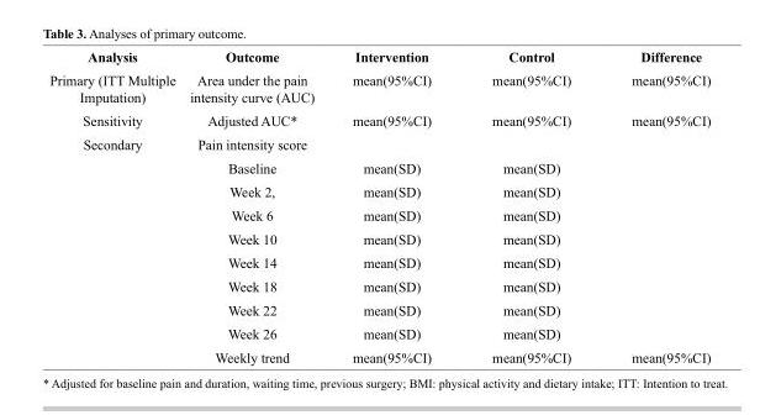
<table><thead><tr><td>Analysis</td><td>Outcome</td><td>Intervention</td><td>Control</td><td>Difference</td></tr></thead><tbody><tr><td>Primary (ITT Multiple Imputation)</td><td>Area under the pain intensity curve (AUC)</td><td>mean(95%CI)</td><td>mean(95%CI)</td><td>mean(95%CI)</td></tr><tr><td>Sensitivity</td><td>Adjusted AUC*</td><td>mean(95%CI)</td><td>mean(95%CI)</td><td>mean(95%CI)</td></tr><tr><td rowspan="10">Secondary</td><td>Pain intensity score</td><td></td><td></td><td></td></tr><tr><td>Baseline</td><td>mean(SD)</td><td>mean(SD)</td><td></td></tr><tr><td>Week 2,</td><td>mean(SD)</td><td>mean(SD)</td><td></td></tr><tr><td>Week 6</td><td>mean(SD)</td><td>mean(SD)</td><td></td></tr><tr><td>Week 10</td><td>mean(SD)</td><td>mean(SD)</td><td></td></tr><tr><td>Week 14</td><td>mean(SD)</td><td>mean(SD)</td><td></td></tr><tr><td>Week 18</td><td>mean(SD)</td><td>mean(SD)</td><td></td></tr><tr><td>Week 22</td><td>mean(SD)</td><td>mean(SD)</td><td></td></tr><tr><td>Week 26</td><td>mean(SD)</td><td>mean(SD)</td><td></td></tr><tr><td>Weekly trend</td><td>mean(95%CI)</td><td>mean(95%CI)</td><td>mean(95%CI)</td></tr></tbody></table>